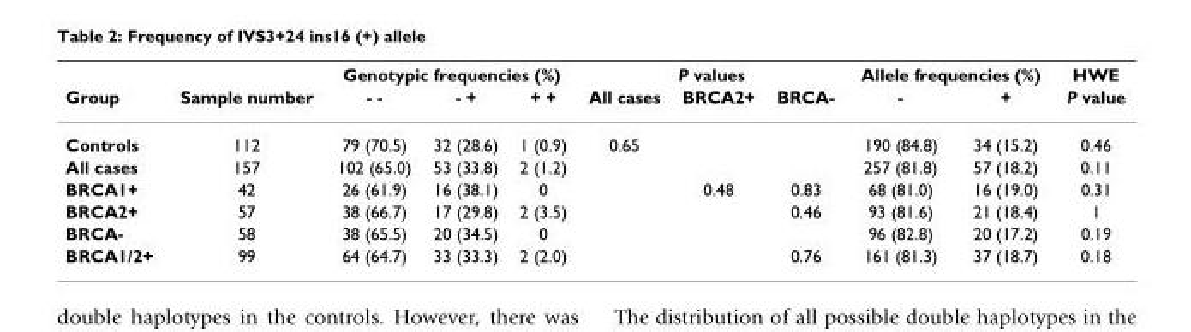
<table><thead><tr><td rowspan="2">Group</td><td rowspan="2">Sample number</td><td colspan="3">Genotypic frequencies (%)</td><td colspan="3">P values</td><td colspan="2">Allele frequencies (%)</td><td rowspan="2">HWE P value</td></tr><tr><td>- -</td><td>- +</td><td>+ +</td><td>All cases</td><td>BRCA2+</td><td>BRCA-</td><td>-</td><td>+</td></tr></thead><tbody><tr><td>Controls</td><td>112</td><td>79 (70.5)</td><td>32 (28.6)</td><td>1 (0.9)</td><td>0.65</td><td></td><td></td><td>190 (84.8)</td><td>34 (15.2)</td><td>0.46</td></tr><tr><td>All cases</td><td>157</td><td>102 (65.0)</td><td>53 (33.8)</td><td>2 (1.2)</td><td></td><td></td><td></td><td>257 (81.8)</td><td>57 (18.2)</td><td>0.11</td></tr><tr><td>BRCA1+</td><td>42</td><td>26 (61.9)</td><td>16 (38.1)</td><td>0</td><td></td><td>0.48</td><td>0.83</td><td>68 (81.0)</td><td>16 (19.0)</td><td>0.31</td></tr><tr><td>BRCA2+</td><td>57</td><td>38 (66.7)</td><td>17 (29.8)</td><td>2 (3.5)</td><td></td><td></td><td>0.46</td><td>93 (81.6)</td><td>21 (18.4)</td><td>1</td></tr><tr><td>BRCA-</td><td>58</td><td>38 (65.5)</td><td>20 (34.5)</td><td>0</td><td></td><td></td><td></td><td>96 (82.8)</td><td>20 (17.2)</td><td>0.19</td></tr><tr><td>BRCA1/2+</td><td>99</td><td>64 (64.7)</td><td>33 (33.3)</td><td>2 (2.0)</td><td></td><td></td><td>0.76</td><td>161 (81.3)</td><td>37 (18.7)</td><td>0.18</td></tr></tbody></table>